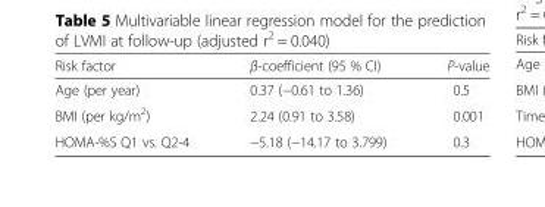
<table><thead><tr><td>Risk factor</td><td>β-coefficient (95 % CI)</td><td>P-value</td></tr></thead><tbody><tr><td>Age (per year)</td><td>0.37 (−0.61 to 1.36)</td><td>0.5</td></tr><tr><td>BMI (per kg/m<sup>2</sup>)</td><td>2.24 (0.91 to 3.58)</td><td>0.001</td></tr><tr><td>HOMA-%S Q1 vs. Q2-4</td><td>−5.18 (−14.17 to 3.799)</td><td>0.3</td></tr></tbody></table>